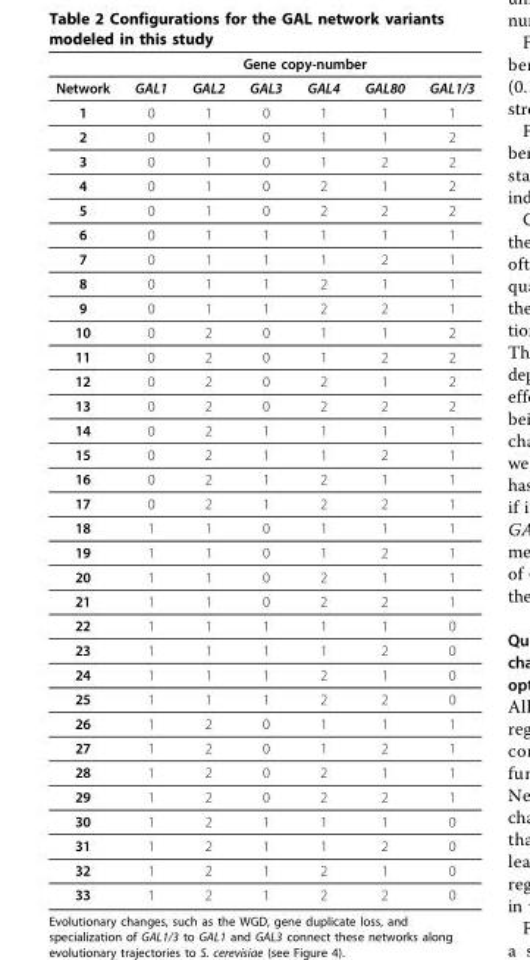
<table><thead><tr><td rowspan="2">Network</td><td colspan="6">Gene copy-number</td></tr><tr><td>GAL1</td><td>GAL2</td><td>GAL3</td><td>GAL4</td><td>GAL80</td><td>GAL1/3</td></tr></thead><tbody><tr><td>1</td><td>0</td><td>1</td><td>0</td><td>1</td><td>1</td><td>1</td></tr><tr><td>2</td><td>0</td><td>1</td><td>0</td><td>1</td><td>1</td><td>2</td></tr><tr><td>3</td><td>0</td><td>1</td><td>0</td><td>1</td><td>2</td><td>2</td></tr><tr><td>4</td><td>0</td><td>1</td><td>0</td><td>2</td><td>1</td><td>2</td></tr><tr><td>5</td><td>0</td><td>1</td><td>0</td><td>2</td><td>2</td><td>2</td></tr><tr><td>6</td><td>0</td><td>1</td><td>1</td><td>1</td><td>1</td><td>1</td></tr><tr><td>7</td><td>0</td><td>1</td><td>1</td><td>1</td><td>2</td><td>1</td></tr><tr><td>8</td><td>0</td><td>1</td><td>1</td><td>2</td><td>1</td><td>1</td></tr><tr><td>9</td><td>0</td><td>1</td><td>1</td><td>2</td><td>2</td><td>1</td></tr><tr><td>10</td><td>0</td><td>2</td><td>0</td><td>1</td><td>1</td><td>2</td></tr><tr><td>11</td><td>0</td><td>2</td><td>0</td><td>1</td><td>2</td><td>2</td></tr><tr><td>12</td><td>0</td><td>2</td><td>0</td><td>2</td><td>1</td><td>2</td></tr><tr><td>13</td><td>0</td><td>2</td><td>0</td><td>2</td><td>2</td><td>2</td></tr><tr><td>14</td><td>0</td><td>2</td><td>1</td><td>1</td><td>1</td><td>1</td></tr><tr><td>15</td><td>0</td><td>2</td><td>1</td><td>1</td><td>2</td><td>1</td></tr><tr><td>16</td><td>0</td><td>2</td><td>1</td><td>2</td><td>1</td><td>1</td></tr><tr><td>17</td><td>0</td><td>2</td><td>1</td><td>2</td><td>2</td><td>1</td></tr><tr><td>18</td><td>1</td><td>1</td><td>0</td><td>1</td><td>1</td><td>1</td></tr><tr><td>19</td><td>1</td><td>1</td><td>0</td><td>1</td><td>2</td><td>1</td></tr><tr><td>20</td><td>1</td><td>1</td><td>0</td><td>2</td><td>1</td><td>1</td></tr><tr><td>21</td><td>1</td><td>1</td><td>0</td><td>2</td><td>2</td><td>1</td></tr><tr><td>22</td><td>1</td><td>1</td><td>1</td><td>1</td><td>1</td><td>0</td></tr><tr><td>23</td><td>1</td><td>1</td><td>1</td><td>1</td><td>2</td><td>0</td></tr><tr><td>24</td><td>1</td><td>1</td><td>1</td><td>2</td><td>1</td><td>0</td></tr><tr><td>25</td><td>1</td><td>1</td><td>1</td><td>2</td><td>2</td><td>0</td></tr><tr><td>26</td><td>1</td><td>2</td><td>0</td><td>1</td><td>1</td><td>1</td></tr><tr><td>27</td><td>1</td><td>2</td><td>0</td><td>1</td><td>2</td><td>1</td></tr><tr><td>28</td><td>1</td><td>2</td><td>0</td><td>2</td><td>1</td><td>1</td></tr><tr><td>29</td><td>1</td><td>2</td><td>0</td><td>2</td><td>2</td><td>1</td></tr><tr><td>30</td><td>1</td><td>2</td><td>1</td><td>1</td><td>1</td><td>0</td></tr><tr><td>31</td><td>1</td><td>2</td><td>1</td><td>1</td><td>2</td><td>0</td></tr><tr><td>32</td><td>1</td><td>2</td><td>1</td><td>2</td><td>1</td><td>0</td></tr><tr><td>33</td><td>1</td><td>2</td><td>1</td><td>2</td><td>2</td><td>0</td></tr></tbody></table>